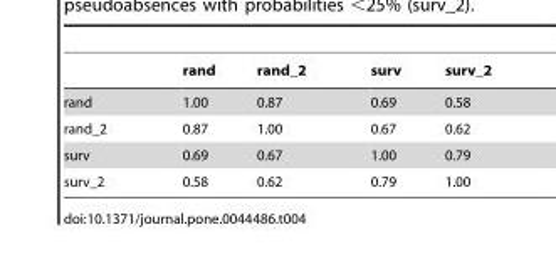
<table><thead><tr><td></td><td>rand</td><td>rand_2</td><td>surv</td><td>surv_2</td></tr></thead><tbody><tr><td>rand</td><td>1.00</td><td>0.87</td><td>0.69</td><td>0.58</td></tr><tr><td>rand_2</td><td>0.87</td><td>1.00</td><td>0.67</td><td>0.62</td></tr><tr><td>surv</td><td>0.69</td><td>0.67</td><td>1.00</td><td>0.79</td></tr><tr><td>surv_2</td><td>0.58</td><td>0.62</td><td>0.79</td><td>1.00</td></tr></tbody></table>